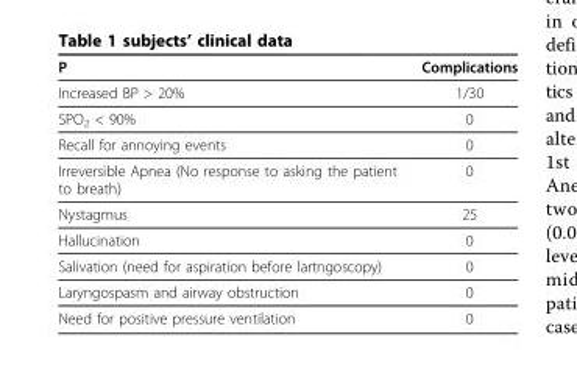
<table><thead><tr><td>P</td><td>Complications</td></tr></thead><tbody><tr><td>Increased BP &gt; 20%</td><td>1/30</td></tr><tr><td>SPO<sub>2</sub> &lt; 90%</td><td>0</td></tr><tr><td>Recall for annoying events</td><td>0</td></tr><tr><td>Irreversible Apnea (No response to asking the patient to breath)</td><td>0</td></tr><tr><td>Nystagmus</td><td>25</td></tr><tr><td>Hallucination</td><td>0</td></tr><tr><td>Salivation (need for aspiration before lartngoscopy)</td><td>0</td></tr><tr><td>Laryngospasm and airway obstruction</td><td>0</td></tr><tr><td>Need for positive pressure ventilation</td><td>0</td></tr></tbody></table>